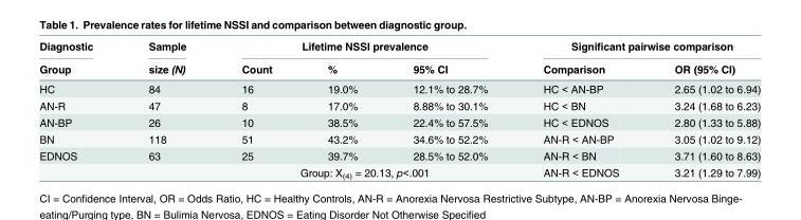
<table><thead><tr><td rowspan="2">Diagnostic Group</td><td rowspan="2">Sample size (N)</td><td colspan="3">Lifetime NSSI prevalence</td><td colspan="2">Significant pairwise comparison</td></tr><tr><td>Count</td><td>%</td><td>95% CI</td><td>Comparison</td><td>OR (95% CI)</td></tr></thead><tbody><tr><td>HC</td><td>84</td><td>16</td><td>19.0%</td><td>12.1% to 28.7%</td><td>HC &lt; AN-BP</td><td>2.65 (1.02 to 6.94)</td></tr><tr><td>AN-R</td><td>47</td><td>8</td><td>17.0%</td><td>8.88% to 30.1%</td><td>HC &lt; BN</td><td>3.24 (1.68 to 6.23)</td></tr><tr><td>AN-BP</td><td>26</td><td>10</td><td>38.5%</td><td>22.4% to 57.5%</td><td>HC &lt; EDNOS</td><td>2.80 (1.33 to 5.88)</td></tr><tr><td>BN</td><td>118</td><td>51</td><td>43.2%</td><td>34.6% to 52.2%</td><td>AN-R &lt; AN-BP</td><td>3.05 (1.02 to 9.12)</td></tr><tr><td rowspan="2">EDNOS</td><td>63</td><td>25</td><td>39.7%</td><td>28.5% to 52.0%</td><td>AN-R &lt; BN</td><td>3.71 (1.60 to 8.63)</td></tr><tr><td></td><td colspan="3">Group: X<sub>(4)</sub> = 20.13, p&lt;.001</td><td>AN-R &lt; EDNOS</td><td>3.21 (1.29 to 7.99)</td></tr></tbody></table>